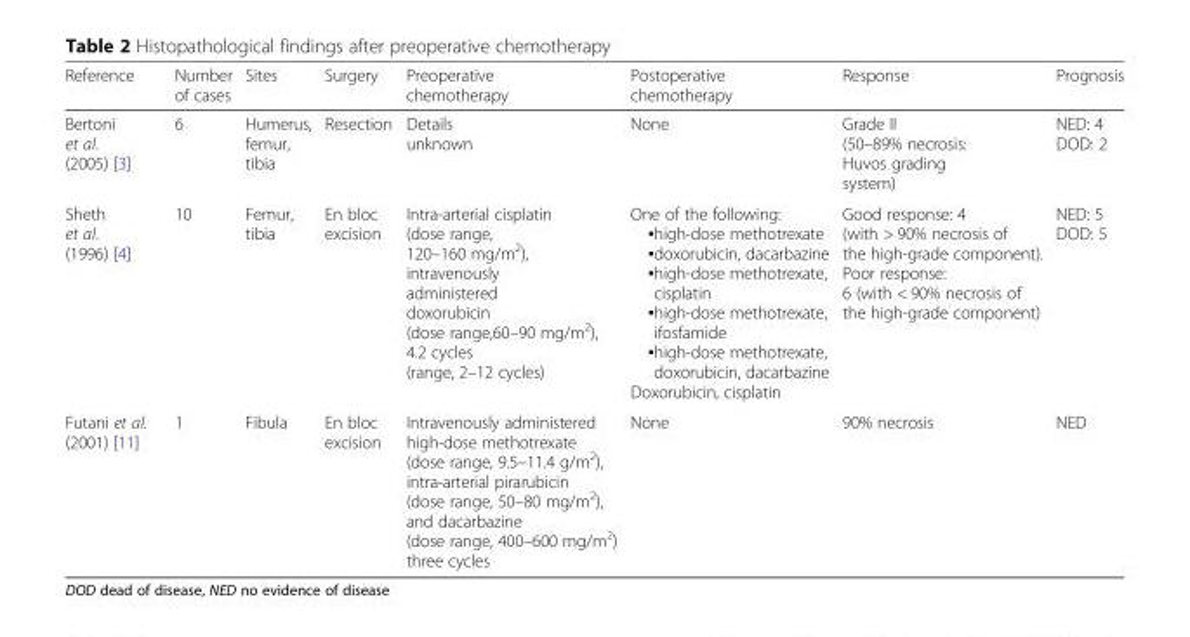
<table><thead><tr><td>Reference</td><td>Number of cases</td><td>Sites</td><td>Surgery</td><td>Preoperative chemotherapy</td><td>Postoperative chemotherapy</td><td>Response</td><td>Prognosis</td></tr></thead><tbody><tr><td>Bertoni et al. (2005) [3]</td><td>6</td><td>Humerus, femur, tibia</td><td>Resection</td><td>Details unknown</td><td>None</td><td>Grade II (50–89% necrosis: Huvos grading system)</td><td>NED: 4 DOD: 2</td></tr><tr><td>Sheth et al. (1996) [4]</td><td>10</td><td>Femur, tibia</td><td>En bloc excision</td><td>Intra-arterial cisplatin (dose range, 120–160 mg/m<sup>2</sup>), intravenously administered doxorubicin (dose range,60–90 mg/m<sup>2</sup>), 4.2 cycles (range, 2–12 cycles)</td><td>One of the following: ▪high-dose methotrexate ▪doxorubicin, dacarbazine ▪high-dose methotrexate, cisplatin ▪high-dose methotrexate, ifosfamide ▪high-dose methotrexate, doxorubicin, dacarbazine Doxorubicin, cisplatin</td><td>Good response: 4 (with &gt; 90% necrosis of the high-grade component). Poor response: 6 (with &lt; 90% necrosis of the high-grade component)</td><td>NED: 5 DOD: 5</td></tr><tr><td>Futani et al. (2001) [11]</td><td>1</td><td>Fibula</td><td>En bloc excision</td><td>Intravenously administered high-dose methotrexate (dose range, 9.5–11.4 g/m<sup>2</sup>), intra-arterial pirarubicin (dose range, 50–80 mg/m<sup>2</sup>), and dacarbazine (dose range, 400–600 mg/m<sup>2</sup>) three cycles</td><td>None</td><td>90% necrosis</td><td>NED</td></tr></tbody></table>